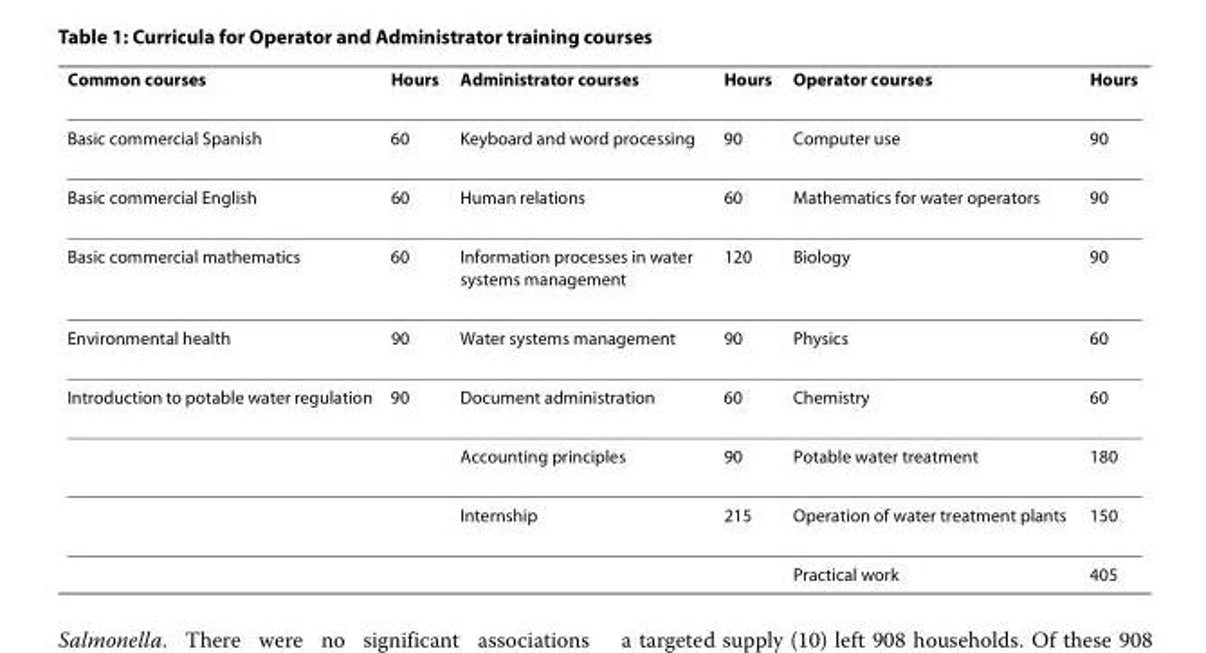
<table><thead><tr><td>Common courses</td><td>Hours</td><td>Administrator courses</td><td>Hours</td><td>Operator courses</td><td>Hours</td></tr></thead><tbody><tr><td>Basic commercial Spanish</td><td>60</td><td>Keyboard and word processing</td><td>90</td><td>Computer use</td><td>90</td></tr><tr><td>Basic commercial English</td><td>60</td><td>Human relations</td><td>60</td><td>Mathematics for water operators</td><td>90</td></tr><tr><td>Basic commercial mathematics</td><td>60</td><td>Information processes in water systems management</td><td>120</td><td>Biology</td><td>90</td></tr><tr><td>Environmental health</td><td>90</td><td>Water systems management</td><td>90</td><td>Physics</td><td>60</td></tr><tr><td rowspan="4">Introduction to potable water regulation</td><td>90</td><td>Document administration</td><td>60</td><td>Chemistry</td><td>60</td></tr><tr><td></td><td>Accounting principles</td><td>90</td><td>Potable water treatment</td><td>180</td></tr><tr><td></td><td>Internship</td><td>215</td><td>Operation of water treatment plants</td><td>150</td></tr><tr><td></td><td></td><td></td><td>Practical work</td><td>405</td></tr></tbody></table>